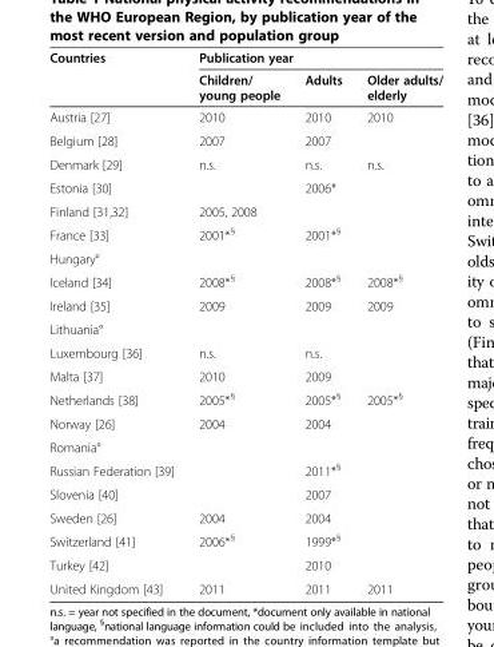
<table><thead><tr><td rowspan="2">Countries</td><td colspan="3">Publication year</td></tr><tr><td>Children/ young people</td><td>Adults</td><td>Older adults/ elderly</td></tr></thead><tbody><tr><td>Austria [27]</td><td>2010</td><td>2010</td><td>2010</td></tr><tr><td>Belgium [28]</td><td>2007</td><td>2007</td><td></td></tr><tr><td>Denmark [29]</td><td>n.s.</td><td>n.s.</td><td>n.s.</td></tr><tr><td>Estonia [30]</td><td></td><td>2006*</td><td></td></tr><tr><td>Finland [31,32]</td><td>2005, 2008</td><td></td><td></td></tr><tr><td>France [33]</td><td>2001*<sup>§</sup></td><td>2001*<sup>§</sup></td><td></td></tr><tr><td colspan="4">Hungary°</td></tr><tr><td>Iceland [34]</td><td>2008*<sup>§</sup></td><td>2008*<sup>§</sup></td><td>2008*<sup>§</sup></td></tr><tr><td>Ireland [35]</td><td>2009</td><td>2009</td><td>2009</td></tr><tr><td colspan="4">Lithuania°</td></tr><tr><td>Luxembourg [36]</td><td>n.s.</td><td>n.s.</td><td></td></tr><tr><td>Malta [37]</td><td>2010</td><td>2009</td><td></td></tr><tr><td>Netherlands [38]</td><td>2005*<sup>§</sup></td><td>2005*<sup>§</sup></td><td>2005*<sup>§</sup></td></tr><tr><td>Norway [26]</td><td>2004</td><td>2004</td><td></td></tr><tr><td colspan="4">Romania°</td></tr><tr><td>Russian Federation [39]</td><td></td><td>2011*<sup>§</sup></td><td></td></tr><tr><td>Slovenia [40]</td><td></td><td>2007</td><td></td></tr><tr><td>Sweden [26]</td><td>2004</td><td>2004</td><td></td></tr><tr><td>Switzerland [41]</td><td>2006*<sup>§</sup></td><td>1999*<sup>§</sup></td><td></td></tr><tr><td>Turkey [42]</td><td></td><td>2010</td><td></td></tr><tr><td>United Kingdom [43]</td><td>2011</td><td>2011</td><td>2011</td></tr></tbody></table>